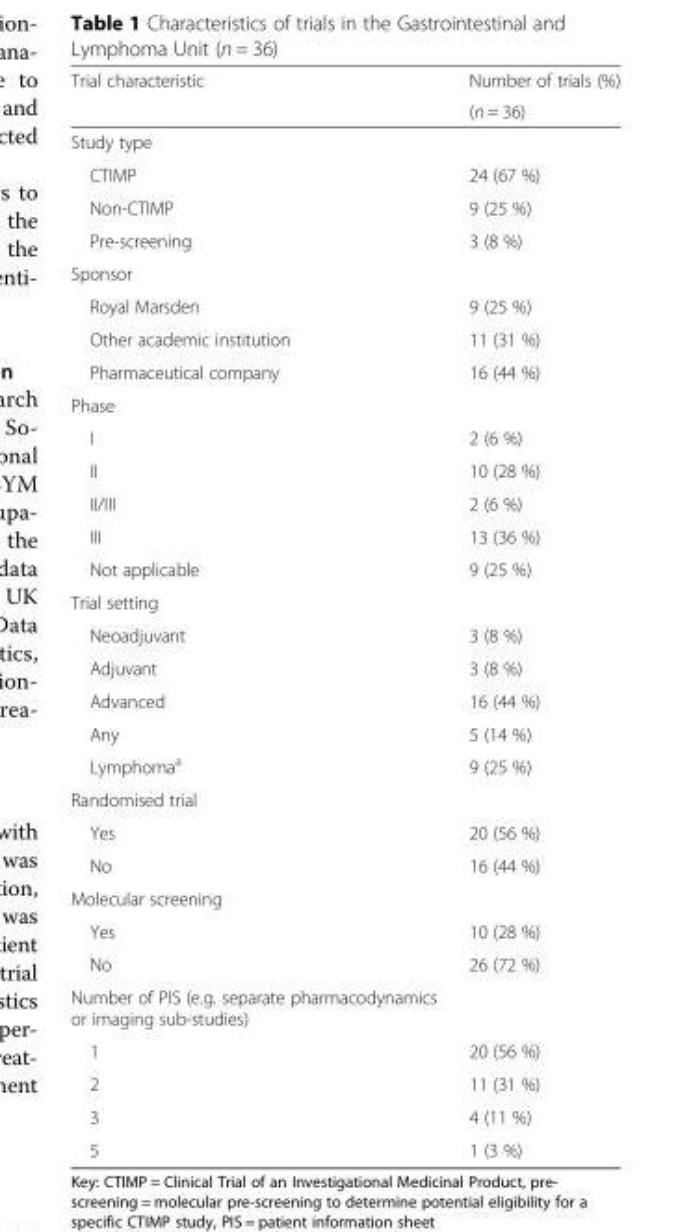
<table><thead><tr><td rowspan="2">Trial characteristic</td><td rowspan="2">Number of trials (%) (n = 36)</td></tr><tr></tr></thead><tbody><tr><td colspan="2">Study type</td></tr><tr><td>CTIMP</td><td>24 (67 %)</td></tr><tr><td>Non-CTIMP</td><td>9 (25 %)</td></tr><tr><td>Pre-screening</td><td>3 (8 %)</td></tr><tr><td colspan="2">Sponsor</td></tr><tr><td>Royal Marsden</td><td>9 (25 %)</td></tr><tr><td>Other academic institution</td><td>11 (31 %)</td></tr><tr><td>Pharmaceutical company</td><td>16 (44 %)</td></tr><tr><td colspan="2">Phase</td></tr><tr><td>I</td><td>2 (6 %)</td></tr><tr><td>II</td><td>10 (28 %)</td></tr><tr><td>II/III</td><td>2 (6 %)</td></tr><tr><td>III</td><td>13 (36 %)</td></tr><tr><td>Not applicable</td><td>9 (25 %)</td></tr><tr><td colspan="2">Trial setting</td></tr><tr><td>Neoadjuvant</td><td>3 (8 %)</td></tr><tr><td>Adjuvant</td><td>3 (8 %)</td></tr><tr><td>Advanced</td><td>16 (44 %)</td></tr><tr><td>Any</td><td>5 (14 %)</td></tr><tr><td>Lymphoma<sup>a</sup></td><td>9 (25 %)</td></tr><tr><td colspan="2">Randomised trial</td></tr><tr><td>Yes</td><td>20 (56 %)</td></tr><tr><td>No</td><td>16 (44 %)</td></tr><tr><td colspan="2">Molecular screening</td></tr><tr><td>Yes</td><td>10 (28 %)</td></tr><tr><td>No</td><td>26 (72 %)</td></tr><tr><td colspan="2">Number of PIS (e.g. separate pharmacodynamics or imaging sub-studies)</td></tr><tr><td>1</td><td>20 (56 %)</td></tr><tr><td>2</td><td>11 (31 %)</td></tr><tr><td>3</td><td>4 (11 %)</td></tr><tr><td>5</td><td>1 (3 %)</td></tr></tbody></table>